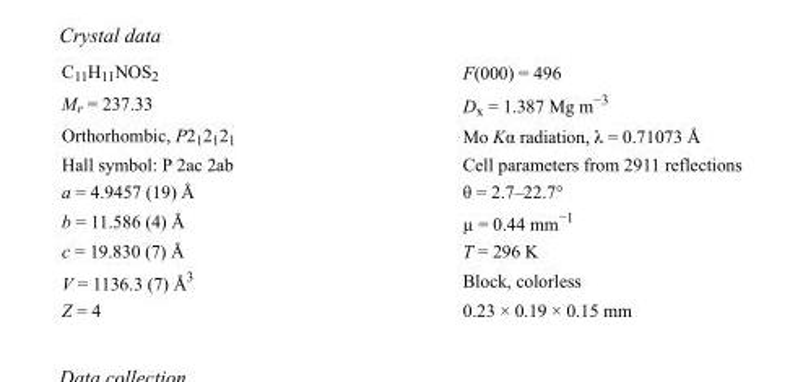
<table><tbody><tr><td>C<sub>11</sub>H<sub>11</sub>NOS<sub>2</sub></td><td>F(000) = 496</td></tr><tr><td>M<sub>r</sub> = 237.33</td><td>D<sub>x</sub> = 1.387 Mg m<sup>−3</sup></td></tr><tr><td>Orthorhombic, P2<sub>1</sub>2<sub>1</sub>2<sub>1</sub></td><td>Mo Kα radiation, λ = 0.71073 Å</td></tr><tr><td>Hall symbol: P 2ac 2ab</td><td>Cell parameters from 2911 reflections</td></tr><tr><td>a = 4.9457 (19) Å</td><td>θ = 2.7–22.7°</td></tr><tr><td>b = 11.586 (4) Å</td><td>µ = 0.44 mm<sup>−1</sup></td></tr><tr><td>c = 19.830 (7) Å</td><td>T = 296 K</td></tr><tr><td>V = 1136.3 (7) Å<sup>3</sup></td><td>Block, colorless</td></tr><tr><td>Z = 4</td><td>0.23 × 0.19 × 0.15 mm</td></tr></tbody></table>